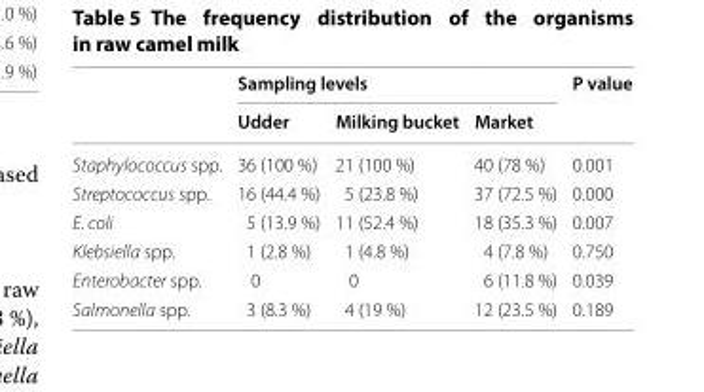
<table><thead><tr><td rowspan="2"></td><td colspan="3">Sampling levels</td><td rowspan="2">P value</td></tr><tr><td>Udder</td><td>Milking bucket</td><td>Market</td></tr></thead><tbody><tr><td>Staphylococcus spp.</td><td>36 (100 %)</td><td>21 (100 %)</td><td>40 (78 %)</td><td>0.001</td></tr><tr><td>Streptococcus spp.</td><td>16 (44.4 %)</td><td>5 (23.8 %)</td><td>37 (72.5 %)</td><td>0.000</td></tr><tr><td>E. coli</td><td>5 (13.9 %)</td><td>11 (52.4 %)</td><td>18 (35.3 %)</td><td>0.007</td></tr><tr><td>Klebsiella spp.</td><td>1 (2.8 %)</td><td>1 (4.8 %)</td><td>4 (7.8 %)</td><td>0.750</td></tr><tr><td>Enterobacter spp.</td><td>0</td><td>0</td><td>6 (11.8 %)</td><td>0.039</td></tr><tr><td>Salmonella spp.</td><td>3 (8.3 %)</td><td>4 (19 %)</td><td>12 (23.5 %)</td><td>0.189</td></tr></tbody></table>